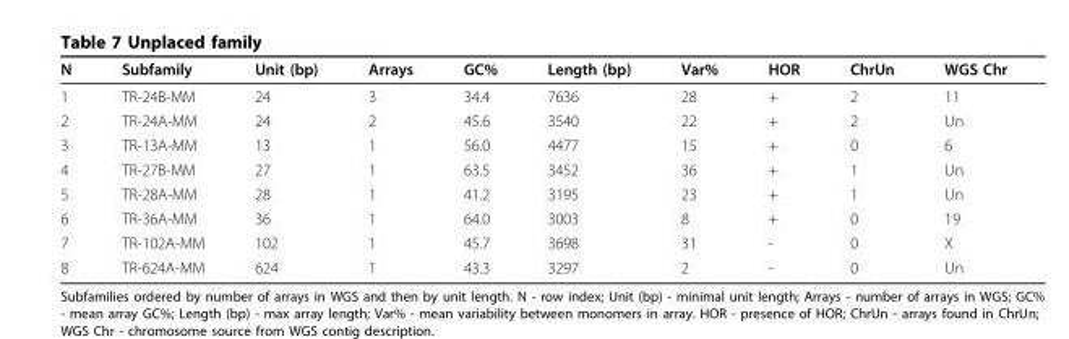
<table><thead><tr><td>N</td><td>Subfamily</td><td>Unit (bp)</td><td>Arrays</td><td>GC%</td><td>Length (bp)</td><td>Var%</td><td>HOR</td><td>ChrUn</td><td>WGS Chr</td></tr></thead><tbody><tr><td>1</td><td>TR-24B-MM</td><td>24</td><td>3</td><td>34.4</td><td>7636</td><td>28</td><td>+</td><td>2</td><td>11</td></tr><tr><td>2</td><td>TR-24A-MM</td><td>24</td><td>2</td><td>45.6</td><td>3540</td><td>22</td><td>+</td><td>2</td><td>Un</td></tr><tr><td>3</td><td>TR-13A-MM</td><td>13</td><td>1</td><td>56.0</td><td>4477</td><td>15</td><td>+</td><td>0</td><td>6</td></tr><tr><td>4</td><td>TR-27B-MM</td><td>27</td><td>1</td><td>63.5</td><td>3452</td><td>36</td><td>+</td><td>1</td><td>Un</td></tr><tr><td>5</td><td>TR-28A-MM</td><td>28</td><td>1</td><td>41.2</td><td>3195</td><td>23</td><td>+</td><td>1</td><td>Un</td></tr><tr><td>6</td><td>TR-36A-MM</td><td>36</td><td>1</td><td>64.0</td><td>3003</td><td>8</td><td>+</td><td>0</td><td>19</td></tr><tr><td>7</td><td>TR-102A-MM</td><td>102</td><td>1</td><td>45.7</td><td>3698</td><td>31</td><td>-</td><td>0</td><td>X</td></tr><tr><td>8</td><td>TR-624A-MM</td><td>624</td><td>1</td><td>43.3</td><td>3297</td><td>2</td><td>-</td><td>0</td><td>Un</td></tr></tbody></table>